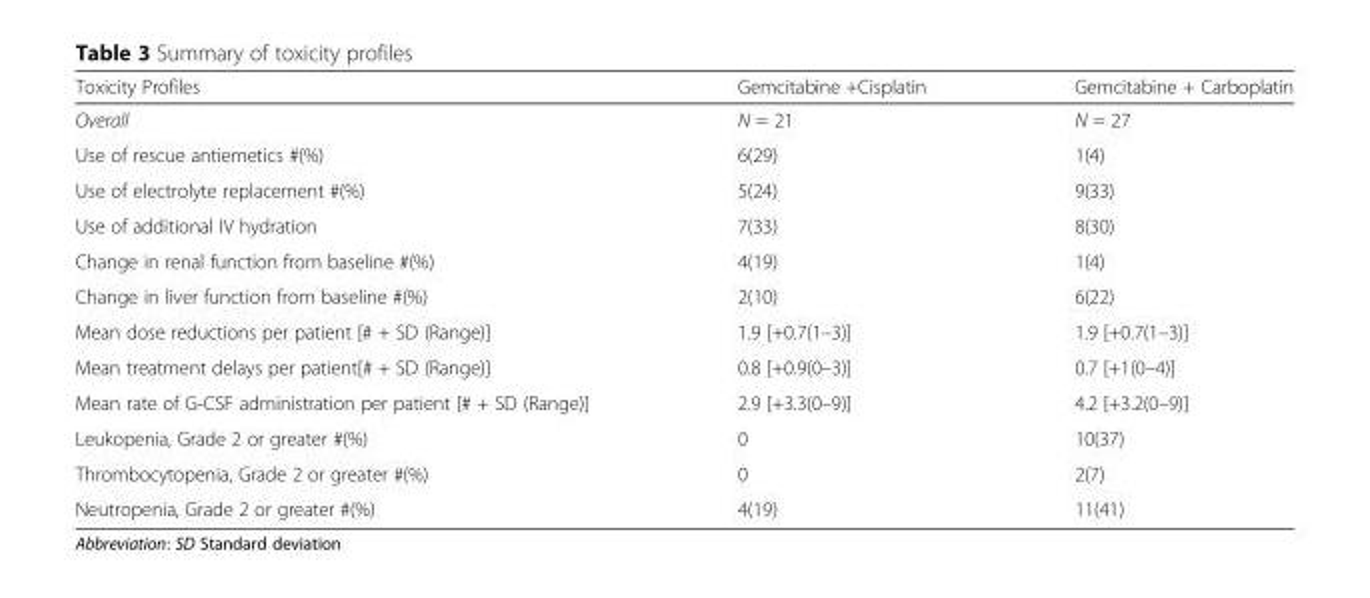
<table><thead><tr><td>Toxicity Profiles</td><td>Gemcitabine +Cisplatin</td><td>Gemcitabine + Carboplatin</td></tr></thead><tbody><tr><td>Overall</td><td>N = 21</td><td>N = 27</td></tr><tr><td>Use of rescue antiemetics #(%)</td><td>6(29)</td><td>1(4)</td></tr><tr><td>Use of electrolyte replacement #(%)</td><td>5(24)</td><td>9(33)</td></tr><tr><td>Use of additional IV hydration</td><td>7(33)</td><td>8(30)</td></tr><tr><td>Change in renal function from baseline #(%)</td><td>4(19)</td><td>1(4)</td></tr><tr><td>Change in liver function from baseline #(%)</td><td>2(10)</td><td>6(22)</td></tr><tr><td>Mean dose reductions per patient [# + SD (Range)]</td><td>1.9 [+0.7(1–3)]</td><td>1.9 [+0.7(1–3)]</td></tr><tr><td>Mean treatment delays per patient[# + SD (Range)]</td><td>0.8 [+0.9(0–3)]</td><td>0.7 [+1(0–4)]</td></tr><tr><td>Mean rate of G-CSF administration per patient [# + SD (Range)]</td><td>2.9 [+3.3(0–9)]</td><td>4.2 [+3.2(0–9)]</td></tr><tr><td>Leukopenia, Grade 2 or greater #(%)</td><td>0</td><td>10(37)</td></tr><tr><td>Thrombocytopenia, Grade 2 or greater #(%)</td><td>0</td><td>2(7)</td></tr><tr><td>Neutropenia, Grade 2 or greater #(%)</td><td>4(19)</td><td>11(41)</td></tr></tbody></table>